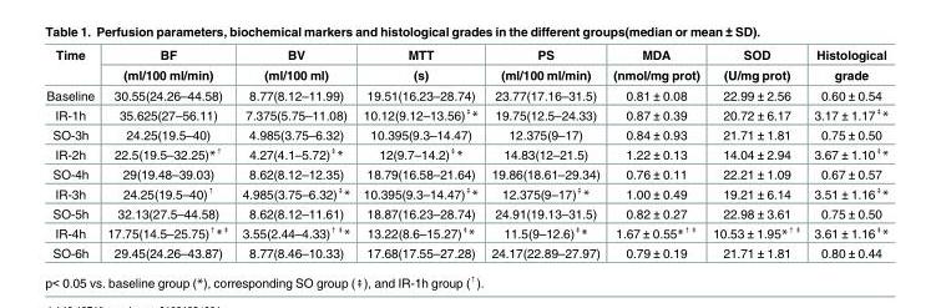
<table><thead><tr><td rowspan="2">Time</td><td rowspan="2">BF (ml/100 ml/min)</td><td rowspan="2">BV (ml/100 ml)</td><td rowspan="2">MTT (s)</td><td rowspan="2">PS (ml/100 ml/min)</td><td rowspan="2">MDA (nmol/mg prot)</td><td rowspan="2">SOD (U/mg prot)</td><td rowspan="2">Histological grade</td></tr><tr></tr></thead><tbody><tr><td>Baseline</td><td>30.55(24.26–44.58)</td><td>8.77(8.12–11.99)</td><td>19.51(16.23–28.74)</td><td>23.77(17.16–31.5)</td><td>0.81 ± 0.08</td><td>22.99 ± 2.56</td><td>0.60 ± 0.54</td></tr><tr><td>IR-1h</td><td>35.625(27–56.11)</td><td>7.375(5.75–11.08)</td><td>10.12(9.12–13.56)<sup>⇞</sup>*</td><td>19.75(12.5–24.33)</td><td>0.87 ± 0.39</td><td>20.72 ± 6.17</td><td>3.17 ± 1.17<sup>⇞</sup>*</td></tr><tr><td>SO-3h</td><td>24.25(19.5–40)</td><td>4.985(3.75–6.32)</td><td>10.395(9.3–14.47)</td><td>12.375(9–17)</td><td>0.84 ± 0.93</td><td>21.71 ± 1.81</td><td>0.75 ± 0.50</td></tr><tr><td>IR-2h</td><td>22.5(19.5–32.25)*<sup>↑</sup></td><td>4.27(4.1–5.72)<sup>⇞</sup>*</td><td>12(9.7–14.2)<sup>⇞</sup>*</td><td>14.83(12–21.5)</td><td>1.22 ± 0.13</td><td>14.04 ± 2.94</td><td>3.67 ± 1.10<sup>⇞</sup>*</td></tr><tr><td>SO-4h</td><td>29(19.48–39.03)</td><td>8.62(8.12–12.35)</td><td>18.79(16.58–21.64)</td><td>19.86(18.61–29.34)</td><td>0.76 ± 0.11</td><td>22.21 ± 1.09</td><td>0.67 ± 0.57</td></tr><tr><td>IR-3h</td><td>24.25(19.5–40)<sup>↑</sup></td><td>4.985(3.75–6.32)<sup>⇞</sup>*</td><td>10.395(9.3–14.47)<sup>⇞</sup>*</td><td>12.375(9–17)<sup>⇞</sup>*</td><td>1.00 ± 0.49</td><td>19.21 ± 6.14</td><td>3.51 ± 1.16<sup>⇞</sup>*</td></tr><tr><td>SO-5h</td><td>32.13(27.5–44.58)</td><td>8.62(8.12–11.61)</td><td>18.87(16.23–28.74)</td><td>24.91(19.13–31.5)</td><td>0.82 ± 0.27</td><td>22.98 ± 3.61</td><td>0.75 ± 0.50</td></tr><tr><td>IR-4h</td><td>17.75(14.5–25.75)<sup>↑</sup>*<sup>⇞</sup></td><td>3.55(2.44–4.33)<sup>↑⇞</sup>*</td><td>13.22(8.6–15.27)<sup>⇞</sup>*</td><td>11.5(9–12.6)<sup>⇞</sup>*</td><td>1.67 ± 0.55*<sup>↑⇞</sup></td><td>10.53 ± 1.95*<sup>↑⇞</sup></td><td>3.61 ± 1.16<sup>⇞</sup>*</td></tr><tr><td>SO-6h</td><td>29.45(24.26–43.87)</td><td>8.77(8.46–10.33)</td><td>17.68(17.55–27.28)</td><td>24.17(22.89–27.97)</td><td>0.79 ± 0.19</td><td>21.71 ± 1.81</td><td>0.80 ± 0.44</td></tr></tbody></table>